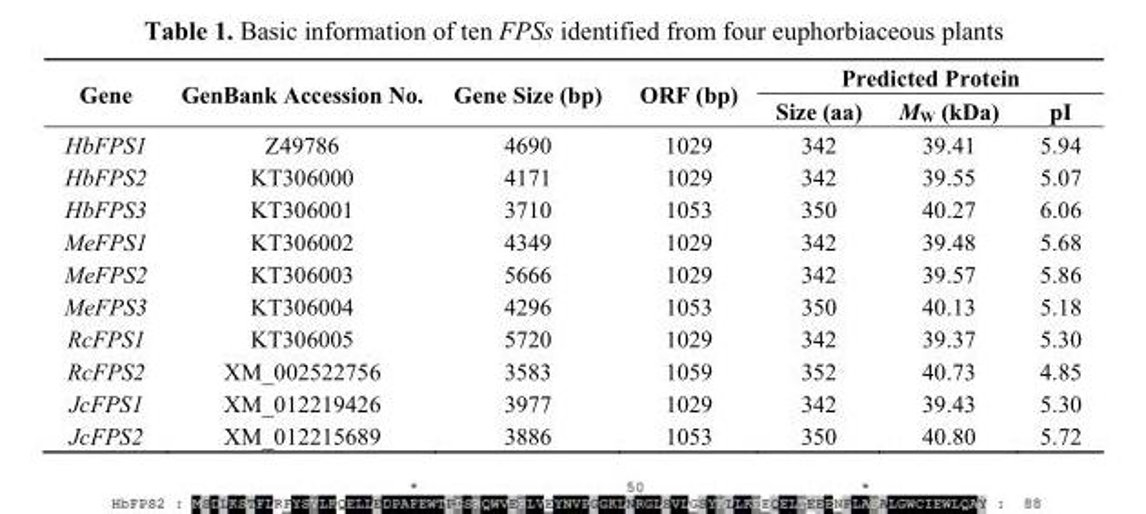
<table><thead><tr><td rowspan="2">Gene</td><td rowspan="2">GenBank Accession No.</td><td rowspan="2">Gene Size (bp)</td><td rowspan="2">ORF (bp)</td><td colspan="3">Predicted Protein</td></tr><tr><td>Size (aa)</td><td>M<sub>W</sub> (kDa)</td><td>pI</td></tr></thead><tbody><tr><td>HbFPS1</td><td>Z49786</td><td>4690</td><td>1029</td><td>342</td><td>39.41</td><td>5.94</td></tr><tr><td>HbFPS2</td><td>KT306000</td><td>4171</td><td>1029</td><td>342</td><td>39.55</td><td>5.07</td></tr><tr><td>HbFPS3</td><td>KT306001</td><td>3710</td><td>1053</td><td>350</td><td>40.27</td><td>6.06</td></tr><tr><td>MeFPS1</td><td>KT306002</td><td>4349</td><td>1029</td><td>342</td><td>39.48</td><td>5.68</td></tr><tr><td>MeFPS2</td><td>KT306003</td><td>5666</td><td>1029</td><td>342</td><td>39.57</td><td>5.86</td></tr><tr><td>MeFPS3</td><td>KT306004</td><td>4296</td><td>1053</td><td>350</td><td>40.13</td><td>5.18</td></tr><tr><td>RcFPS1</td><td>KT306005</td><td>5720</td><td>1029</td><td>342</td><td>39.37</td><td>5.30</td></tr><tr><td>RcFPS2</td><td>XM_002522756</td><td>3583</td><td>1059</td><td>352</td><td>40.73</td><td>4.85</td></tr><tr><td>JcFPS1</td><td>XM_012219426</td><td>3977</td><td>1029</td><td>342</td><td>39.43</td><td>5.30</td></tr><tr><td>JcFPS2</td><td>XM_012215689</td><td>3886</td><td>1053</td><td>350</td><td>40.80</td><td>5.72</td></tr></tbody></table>